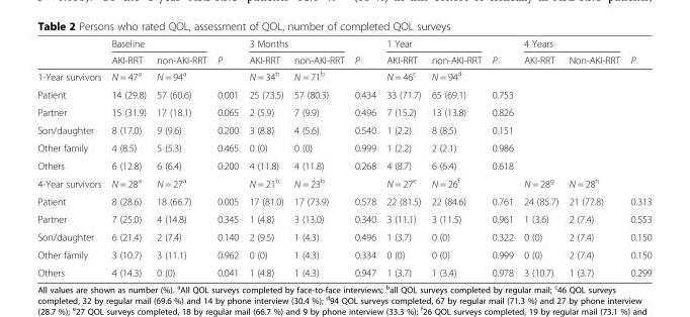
<table><thead><tr><td rowspan="2"></td><td colspan="2">Baseline</td><td rowspan="2">P</td><td colspan="2">3 Months</td><td rowspan="2">P</td><td colspan="2">1 Year</td><td rowspan="2">P</td><td colspan="2">4 Years</td><td rowspan="2">P</td></tr><tr><td>AKI-RRT</td><td>non-AKI-RRT</td><td>AKI-RRT</td><td>non-AKI-RRT</td><td>AKI-RRT</td><td>non-AKI-RRT</td><td>AKI-RRT</td><td>Non-AKI-RRT</td></tr></thead><tbody><tr><td>1-Year survivors</td><td>N = 47<sup>a</sup></td><td>N = 94<sup>a</sup></td><td></td><td>N = 34<sup>b</sup></td><td>N = 71<sup>b</sup></td><td></td><td>N = 46<sup>c</sup></td><td>N = 94<sup>d</sup></td><td></td><td rowspan="6" colspan="3"></td></tr><tr><td>Patient</td><td>14 (29.8)</td><td>57 (60.6)</td><td>0.001</td><td>25 (73.5)</td><td>57 (80.3)</td><td>0.434</td><td>33 (71.7)</td><td>65 (69.1)</td><td>0.753</td></tr><tr><td>Partner</td><td>15 (31.9)</td><td>17 (18.1)</td><td>0.065</td><td>2 (5.9)</td><td>7 (9.9)</td><td>0.496</td><td>7 (15.2)</td><td>13 (13.8)</td><td>0.826</td></tr><tr><td>Son/daughter</td><td>8 (17.0)</td><td>9 (9.6)</td><td>0.200</td><td>3 (8.8)</td><td>4 (5.6)</td><td>0.540</td><td>1 (2.2)</td><td>8 (8.5)</td><td>0.151</td></tr><tr><td>Other family</td><td>4 (8.5)</td><td>5 (5.3)</td><td>0.465</td><td>0 (0)</td><td>0 (0)</td><td>0.999</td><td>1 (2.2)</td><td>2 (2.1)</td><td>0.986</td></tr><tr><td>Others</td><td>6 (12.8)</td><td>6 (6.4)</td><td>0.200</td><td>4 (11.8)</td><td>4 (11.8)</td><td>0.268</td><td>4 (8.7)</td><td>6 (6.4)</td><td>0.618</td></tr><tr><td>4-Year survivors</td><td>N = 28<sup>a</sup></td><td>N = 27<sup>a</sup></td><td></td><td>N = 21<sup>b</sup></td><td>N = 23<sup>b</sup></td><td></td><td>N = 27<sup>e</sup></td><td>N = 26<sup>f</sup></td><td></td><td>N = 28<sup>g</sup></td><td>N = 28<sup>h</sup></td><td></td></tr><tr><td>Patient</td><td>8 (28.6)</td><td>18 (66.7)</td><td>0.005</td><td>17 (81.0)</td><td>17 (73.9)</td><td>0.578</td><td>22 (81.5)</td><td>22 (84.6)</td><td>0.761</td><td>24 (85.7)</td><td>21 (77.8)</td><td>0.313</td></tr><tr><td>Partner</td><td>7 (25.0)</td><td>4 (14.8)</td><td>0.345</td><td>1 (4.8)</td><td>3 (13.0)</td><td>0.340</td><td>3 (11.1)</td><td>3 (11.5)</td><td>0.961</td><td>1 (3.6)</td><td>2 (7.4)</td><td>0.553</td></tr><tr><td>Son/daughter</td><td>6 (21.4)</td><td>2 (7.4)</td><td>0.140</td><td>2 (9.5)</td><td>1 (4.3)</td><td>0.496</td><td>1 (3.7)</td><td>0 (0)</td><td>0.322</td><td>0 (0)</td><td>2 (7.4)</td><td>0.150</td></tr><tr><td>Other family</td><td>3 (10.7)</td><td>3 (11.1)</td><td>0.962</td><td>0 (0)</td><td>1 (4.3)</td><td>0.334</td><td>0 (0)</td><td>0 (0)</td><td>0.999</td><td>0 (0)</td><td>2 (7.4)</td><td>0.150</td></tr><tr><td>Others</td><td>4 (14.3)</td><td>0 (0)</td><td>0.041</td><td>1 (4.8)</td><td>1 (4.3)</td><td>0.947</td><td>1 (3.7)</td><td>1 (3.4)</td><td>0.978</td><td>3 (10.7)</td><td>1 (3.7)</td><td>0.299</td></tr></tbody></table>